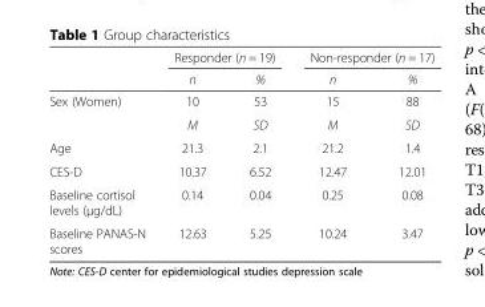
<table><thead><tr><td rowspan="2"></td><td colspan="2">Responder (n = 19)</td><td colspan="2">Non-responder (n = 17)</td></tr><tr><td>n</td><td>%</td><td>n</td><td>%</td></tr></thead><tbody><tr><td rowspan="2">Sex (Women)</td><td>10</td><td>53</td><td>15</td><td>88</td></tr><tr><td>M</td><td>SD</td><td>M</td><td>SD</td></tr><tr><td>Age</td><td>21.3</td><td>2.1</td><td>21.2</td><td>1.4</td></tr><tr><td>CES-D</td><td>10.37</td><td>6.52</td><td>12.47</td><td>12.01</td></tr><tr><td>Baseline cortisol levels (μg/dL)</td><td>0.14</td><td>0.04</td><td>0.25</td><td>0.08</td></tr><tr><td>Baseline PANAS-N scores</td><td>12.63</td><td>5.25</td><td>10.24</td><td>3.47</td></tr></tbody></table>